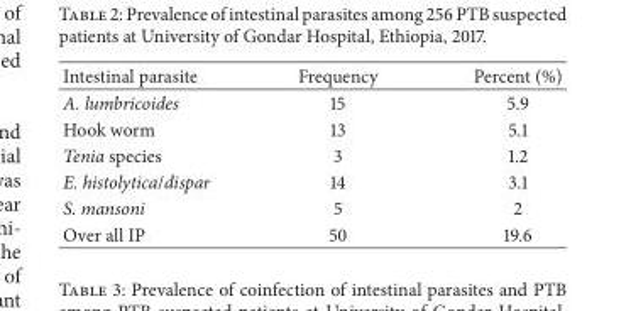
<table><thead><tr><td>Intestinal parasite</td><td>Frequency</td><td>Percent (%)</td></tr></thead><tbody><tr><td>A. lumbricoides</td><td>15</td><td>5.9</td></tr><tr><td>Hook worm</td><td>13</td><td>5.1</td></tr><tr><td>Tenia species</td><td>3</td><td>1.2</td></tr><tr><td>E. histolytica/dispar</td><td>14</td><td>3.1</td></tr><tr><td>S. mansoni</td><td>5</td><td>2</td></tr><tr><td>Over all IP</td><td>50</td><td>19.6</td></tr></tbody></table>